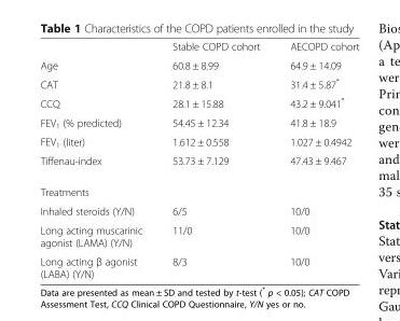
<table><thead><tr><td></td><td>Stable COPD cohort</td><td>AECOPD cohort</td></tr></thead><tbody><tr><td>Age</td><td>60.8 ± 8.99</td><td>64.9 ± 14.09</td></tr><tr><td>CAT</td><td>21.8 ± 8.1</td><td>31.4 ± 5.87*</td></tr><tr><td>CCQ</td><td>28.1 ± 15.88</td><td>43.2 ± 9.041*</td></tr><tr><td>FEV<sub>1</sub> (% predicted)</td><td>54.45 ± 12.34</td><td>41.8 ± 18.9</td></tr><tr><td>FEV<sub>1</sub> (liter)</td><td>1.612 ± 0.558</td><td>1.027 ± 0.4942</td></tr><tr><td>Tiffenau-index</td><td>53.73 ± 7.129</td><td>47.43 ± 9.467</td></tr><tr><td colspan="3">Treatments</td></tr><tr><td>Inhaled steroids (Y/N)</td><td>6/5</td><td>10/0</td></tr><tr><td>Long acting muscarinic agonist (LAMA) (Y/N)</td><td>11/0</td><td>10/0</td></tr><tr><td>Long acting β agonist (LABA) (Y/N)</td><td>8/3</td><td>10/0</td></tr></tbody></table>